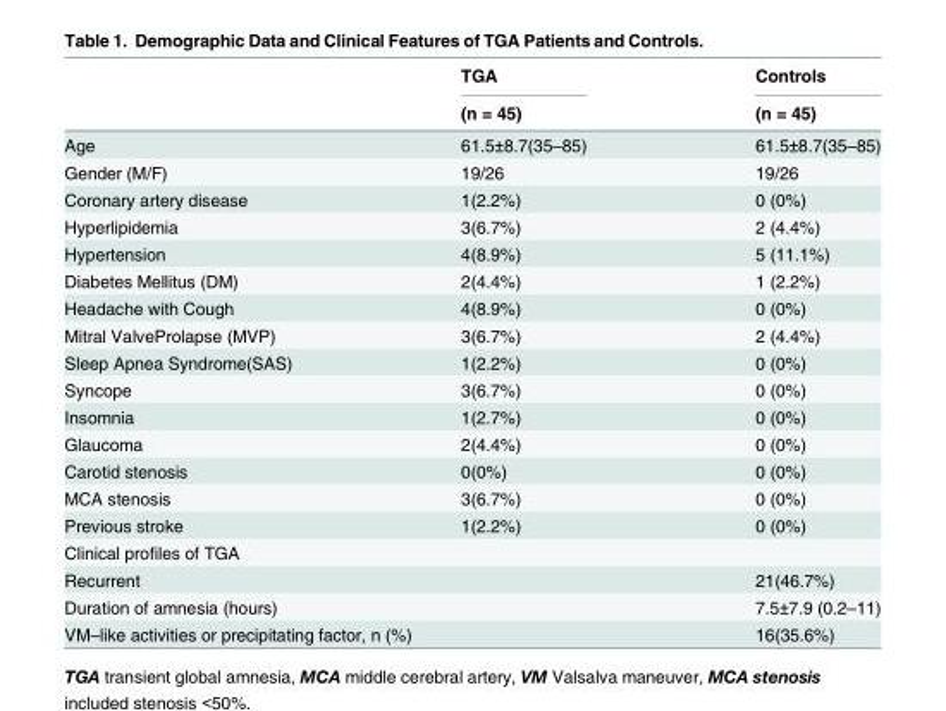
<table><thead><tr><td rowspan="2"></td><td rowspan="2">TGA (n = 45)</td><td rowspan="2">Controls (n = 45)</td></tr><tr></tr></thead><tbody><tr><td>Age</td><td>61.5±8.7(35–85)</td><td>61.5±8.7(35–85)</td></tr><tr><td>Gender (M/F)</td><td>19/26</td><td>19/26</td></tr><tr><td>Coronary artery disease</td><td>1(2.2%)</td><td>0 (0%)</td></tr><tr><td>Hyperlipidemia</td><td>3(6.7%)</td><td>2 (4.4%)</td></tr><tr><td>Hypertension</td><td>4(8.9%)</td><td>5 (11.1%)</td></tr><tr><td>Diabetes Mellitus (DM)</td><td>2(4.4%)</td><td>1 (2.2%)</td></tr><tr><td>Headache with Cough</td><td>4(8.9%)</td><td>0 (0%)</td></tr><tr><td>Mitral ValveProlapse (MVP)</td><td>3(6.7%)</td><td>2 (4.4%)</td></tr><tr><td>Sleep Apnea Syndrome(SAS)</td><td>1(2.2%)</td><td>0 (0%)</td></tr><tr><td>Syncope</td><td>3(6.7%)</td><td>0 (0%)</td></tr><tr><td>Insomnia</td><td>1(2.7%)</td><td>0 (0%)</td></tr><tr><td>Glaucoma</td><td>2(4.4%)</td><td>0 (0%)</td></tr><tr><td>Carotid stenosis</td><td>0(0%)</td><td>0 (0%)</td></tr><tr><td>MCA stenosis</td><td>3(6.7%)</td><td>0 (0%)</td></tr><tr><td>Previous stroke</td><td>1(2.2%)</td><td>0 (0%)</td></tr><tr><td colspan="3">Clinical profiles of TGA</td></tr><tr><td colspan="2">Recurrent</td><td>21(46.7%)</td></tr><tr><td colspan="2">Duration of amnesia (hours)</td><td>7.5±7.9 (0.2–11)</td></tr><tr><td colspan="2">VM–like activities or precipitating factor, n (%)</td><td>16(35.6%)</td></tr></tbody></table>